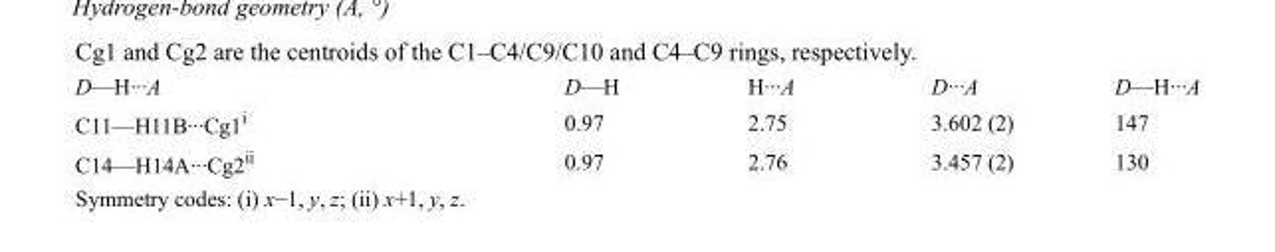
<table><tbody><tr><td>D—H···A</td><td>D—H</td><td>H···A</td><td>D···A</td><td>D—H···A</td></tr><tr><td>C11—H11B···Cg1<sup>i</sup></td><td>0.97</td><td>2.75</td><td>3.602 (2)</td><td>147</td></tr><tr><td>C14—H14A···Cg2<sup>ii</sup></td><td>0.97</td><td>2.76</td><td>3.457 (2)</td><td>130</td></tr></tbody></table>